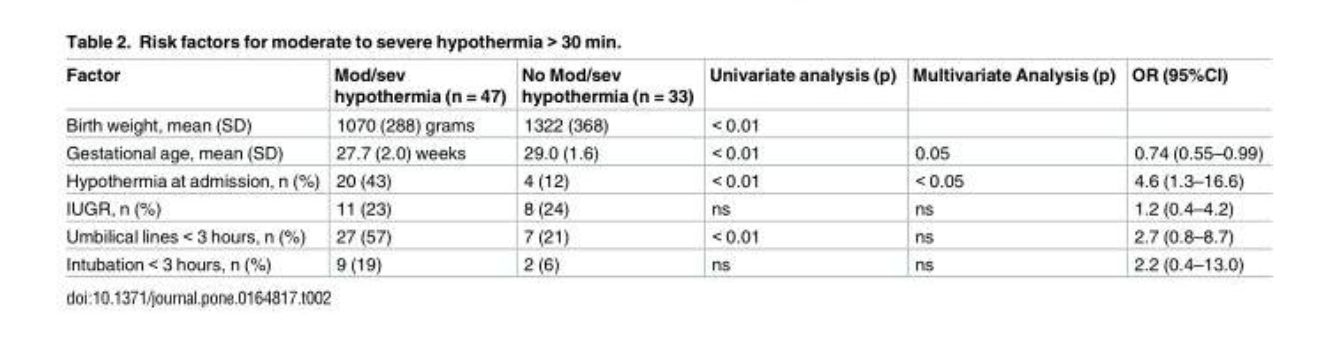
<table><thead><tr><td>Factor</td><td>Mod/sev hypothermia (n = 47)</td><td>No Mod/sev hypothermia (n = 33)</td><td>Univariate analysis (p)</td><td>Multivariate Analysis (p)</td><td>OR (95%CI)</td></tr></thead><tbody><tr><td>Birth weight, mean (SD)</td><td>1070 (288) grams</td><td>1322 (368)</td><td>&lt; 0.01</td><td></td><td></td></tr><tr><td>Gestational age, mean (SD)</td><td>27.7 (2.0) weeks</td><td>29.0 (1.6)</td><td>&lt; 0.01</td><td>0.05</td><td>0.74 (0.55–0.99)</td></tr><tr><td>Hypothermia at admission, n (%)</td><td>20 (43)</td><td>4 (12)</td><td>&lt; 0.01</td><td>&lt; 0.05</td><td>4.6 (1.3–16.6)</td></tr><tr><td>IUGR, n (%)</td><td>11 (23)</td><td>8 (24)</td><td>ns</td><td>ns</td><td>1.2 (0.4–4.2)</td></tr><tr><td>Umbilical lines &lt; 3 hours, n (%)</td><td>27 (57)</td><td>7 (21)</td><td>&lt; 0.01</td><td>ns</td><td>2.7 (0.8–8.7)</td></tr><tr><td>Intubation &lt; 3 hours, n (%)</td><td>9 (19)</td><td>2 (6)</td><td>ns</td><td>ns</td><td>2.2 (0.4–13.0)</td></tr></tbody></table>